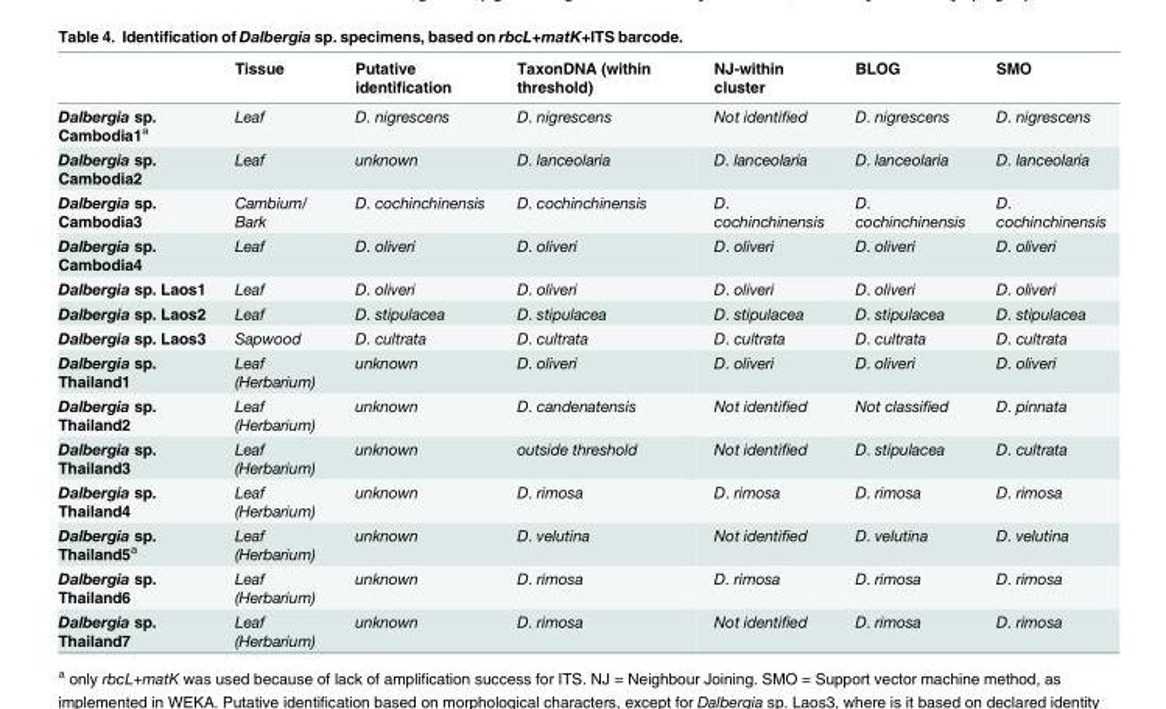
<table><thead><tr><td></td><td>Tissue</td><td>Putative identification</td><td>TaxonDNA (within threshold)</td><td>NJ-within cluster</td><td>BLOG</td><td>SMO</td></tr></thead><tbody><tr><td>Dalbergia sp. Cambodia1<sup>a</sup></td><td>Leaf</td><td>D. nigrescens</td><td>D. nigrescens</td><td>Not identified</td><td>D. nigrescens</td><td>D. nigrescens</td></tr><tr><td>Dalbergia sp. Cambodia2</td><td>Leaf</td><td>unknown</td><td>D. lanceolaria</td><td>D. lanceolaria</td><td>D. lanceolaria</td><td>D. lanceolaria</td></tr><tr><td>Dalbergia sp. Cambodia3</td><td>Cambium/ Bark</td><td>D. cochinchinensis</td><td>D. cochinchinensis</td><td>D. cochinchinensis</td><td>D. cochinchinensis</td><td>D. cochinchinensis</td></tr><tr><td>Dalbergia sp. Cambodia4</td><td>Leaf</td><td>D. oliveri</td><td>D. oliveri</td><td>D. oliveri</td><td>D. oliveri</td><td>D. oliveri</td></tr><tr><td>Dalbergia sp. Laos1</td><td>Leaf</td><td>D. oliveri</td><td>D. oliveri</td><td>D. oliveri</td><td>D. oliveri</td><td>D. oliveri</td></tr><tr><td>Dalbergia sp. Laos2</td><td>Leaf</td><td>D. stipulacea</td><td>D. stipulacea</td><td>D. stipulacea</td><td>D. stipulacea</td><td>D. stipulacea</td></tr><tr><td>Dalbergia sp. Laos3</td><td>Sapwood</td><td>D. cultrata</td><td>D. cultrata</td><td>D. cultrata</td><td>D. cultrata</td><td>D. cultrata</td></tr><tr><td>Dalbergia sp. Thailand1</td><td>Leaf (Herbarium)</td><td>unknown</td><td>D. oliveri</td><td>D. oliveri</td><td>D. oliveri</td><td>D. oliveri</td></tr><tr><td>Dalbergia sp. Thailand2</td><td>Leaf (Herbarium)</td><td>unknown</td><td>D. candenatensis</td><td>Not identified</td><td>Not classified</td><td>D. pinnata</td></tr><tr><td>Dalbergia sp. Thailand3</td><td>Leaf (Herbarium)</td><td>unknown</td><td>outside threshold</td><td>Not identified</td><td>D. stipulacea</td><td>D. cultrata</td></tr><tr><td>Dalbergia sp. Thailand4</td><td>Leaf (Herbarium)</td><td>unknown</td><td>D. rimosa</td><td>D. rimosa</td><td>D. rimosa</td><td>D. rimosa</td></tr><tr><td>Dalbergia sp. Thailand5<sup>a</sup></td><td>Leaf (Herbarium)</td><td>unknown</td><td>D. velutina</td><td>Not identified</td><td>D. velutina</td><td>D. velutina</td></tr><tr><td>Dalbergia sp. Thailand6</td><td>Leaf (Herbarium)</td><td>unknown</td><td>D. rimosa</td><td>D. rimosa</td><td>D. rimosa</td><td>D. rimosa</td></tr><tr><td>Dalbergia sp. Thailand7</td><td>Leaf (Herbarium)</td><td>unknown</td><td>D. rimosa</td><td>Not identified</td><td>D. rimosa</td><td>D. rimosa</td></tr></tbody></table>